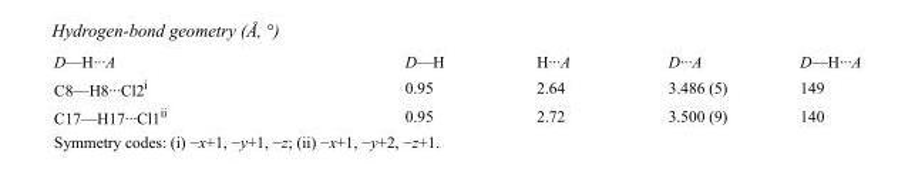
<table><tbody><tr><td>D—H···A</td><td>D—H</td><td>H···A</td><td>D···A</td><td>D—H···A</td></tr><tr><td>C8—H8···Cl2<sup>i</sup></td><td>0.95</td><td>2.64</td><td>3.486 (5)</td><td>149</td></tr><tr><td>C17—H17···Cl1<sup>ii</sup></td><td>0.95</td><td>2.72</td><td>3.500 (9)</td><td>140</td></tr></tbody></table>